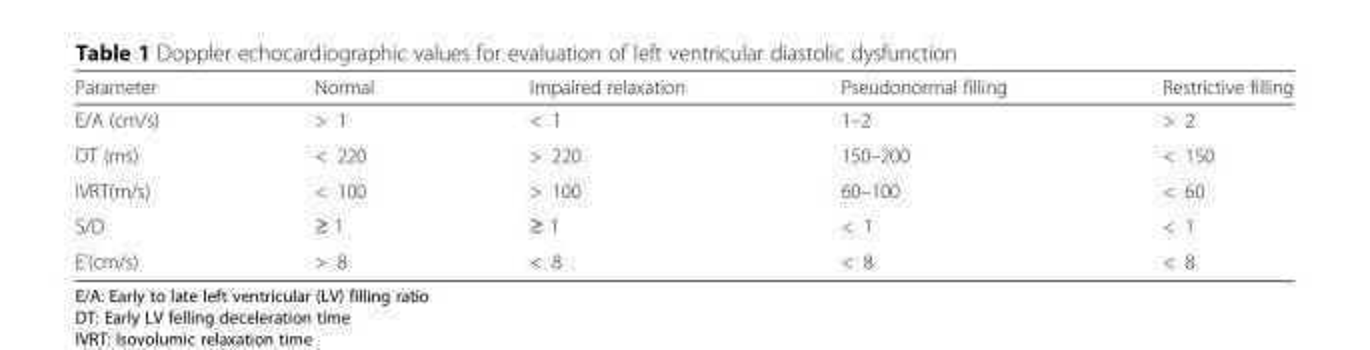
<table><thead><tr><td>Parameter</td><td>Normal</td><td>Impaired relaxation</td><td>Pseudonormal filling</td><td>Restrictive filling</td></tr></thead><tbody><tr><td>E/A (cm/s)</td><td>&gt; 1</td><td>&lt; 1</td><td>1–2</td><td>&gt; 2</td></tr><tr><td>DT (ms)</td><td>&lt; 220</td><td>&gt; 220</td><td>150–200</td><td>&lt; 150</td></tr><tr><td>IVRT(m/s)</td><td>&lt; 100</td><td>&gt; 100</td><td>60–100</td><td>&lt; 60</td></tr><tr><td>S/D</td><td>≥ 1</td><td>≥ 1</td><td>&lt; 1</td><td>&lt; 1</td></tr><tr><td>E’(cm/s)</td><td>&gt; 8</td><td>&lt; 8</td><td>&lt; 8</td><td>&lt; 8</td></tr></tbody></table>